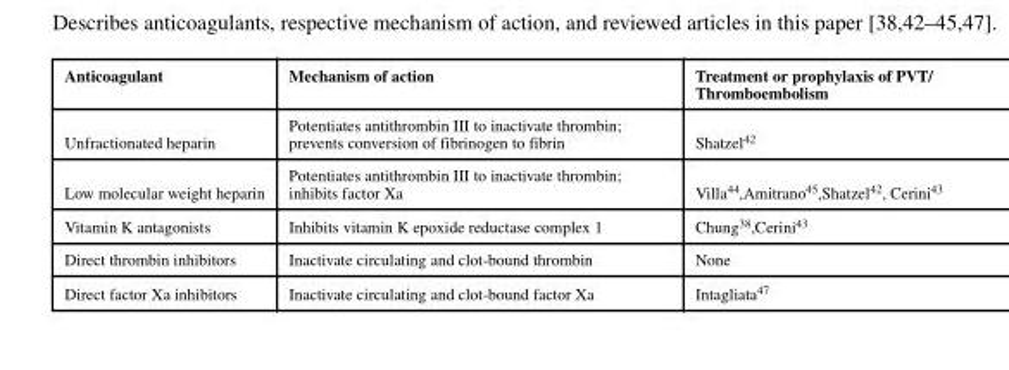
<table><thead><tr><td>Anticoagulant</td><td>Mechanism of action</td><td>Treatment or prophylaxis of PVT/ Thromboembolism</td></tr></thead><tbody><tr><td>Unfractionated heparin</td><td>Potentiates antithrombin III to inactivate thrombin; prevents conversion of fibrinogen to fibrin</td><td>Shatzel<sup>42</sup></td></tr><tr><td>Low molecular weight heparin</td><td>Potentiates antithrombin III to inactivate thrombin; inhibits factor Xa</td><td>Villa<sup>44</sup>,Amitrano<sup>45</sup>,Shatzel<sup>42</sup>, Cerini<sup>43</sup></td></tr><tr><td>Vitamin K antagonists</td><td>Inhibits vitamin K epoxide reductase complex 1</td><td>Chung<sup>38</sup>,Cerini<sup>43</sup></td></tr><tr><td>Direct thrombin inhibitors</td><td>Inactivate circulating and clot-bound thrombin</td><td>None</td></tr><tr><td>Direct factor Xa inhibitors</td><td>Inactivate circulating and clot-bound factor Xa</td><td>Intagliata<sup>47</sup></td></tr></tbody></table>